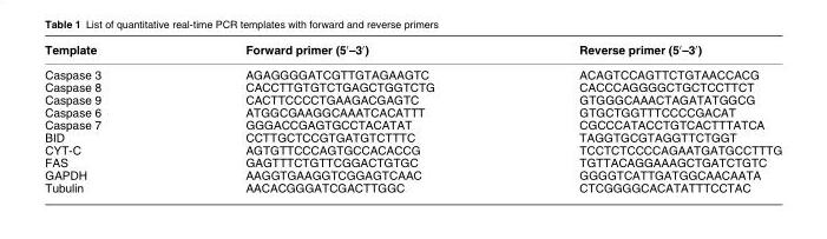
<table><thead><tr><td>Template</td><td>Forward primer (5′–3′)</td><td>Reverse primer (5′–3′)</td></tr></thead><tbody><tr><td>Caspase 3</td><td>AGAGGGGATCGTTGTAGAAGTC</td><td>ACAGTCCAGTTCTGTAACCACG</td></tr><tr><td>Caspase 8</td><td>CACCTTGTGTCTGAGCTGGTCTG</td><td>CACCCAGGGGCTGCTCCTTCT</td></tr><tr><td>Caspase 9</td><td>CACTTCCCCTGAAGACGAGTC</td><td>GTGGGCAAACTAGATATGGCG</td></tr><tr><td>Caspase 6</td><td>ATGGCGAAGGCAAATCACATTT</td><td>GTGCTGGTTTCCCCGACAT</td></tr><tr><td>Caspase 7</td><td>GGGACCGAGTGCCTACATAT</td><td>CGCCCATACCTGTCACTTTATCA</td></tr><tr><td>BID</td><td>CCTTGCTCCGTGATGTCTTTC</td><td>TAGGTGCGTAGGTTCTGGT</td></tr><tr><td>CYT-C</td><td>AGTGTTCCCAGTGCCACACCG</td><td>TCCTCTCCCCAGAATGATGCCTTTG</td></tr><tr><td>FAS</td><td>GAGTTTCTGTTCGGACTGTGC</td><td>TGTTACAGGAAAGCTGATCTGTC</td></tr><tr><td>GAPDH</td><td>AAGGTGAAGGTCGGAGTCAAC</td><td>GGGGTCATTGATGGCAACAATA</td></tr><tr><td>Tubulin</td><td>AACACGGGATCGACTTGGC</td><td>CTCGGGGCACATATTTCCTAC</td></tr></tbody></table>